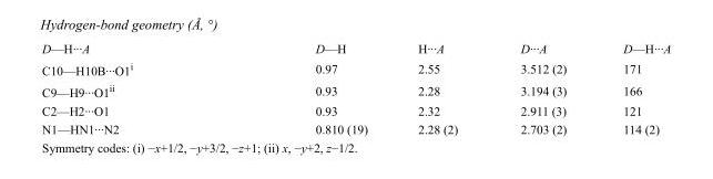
<table><tbody><tr><td>D—H···A</td><td>D—H</td><td>H···A</td><td>D···A</td><td>D—H···A</td></tr><tr><td>C10—H10B···O1<sup>i</sup></td><td>0.97</td><td>2.55</td><td>3.512 (2)</td><td>171</td></tr><tr><td>C9—H9···O1<sup>ii</sup></td><td>0.93</td><td>2.28</td><td>3.194 (3)</td><td>166</td></tr><tr><td>C2—H2···O1</td><td>0.93</td><td>2.32</td><td>2.911 (3)</td><td>121</td></tr><tr><td>N1—HN1···N2</td><td>0.810 (19)</td><td>2.28 (2)</td><td>2.703 (2)</td><td>114 (2)</td></tr></tbody></table>